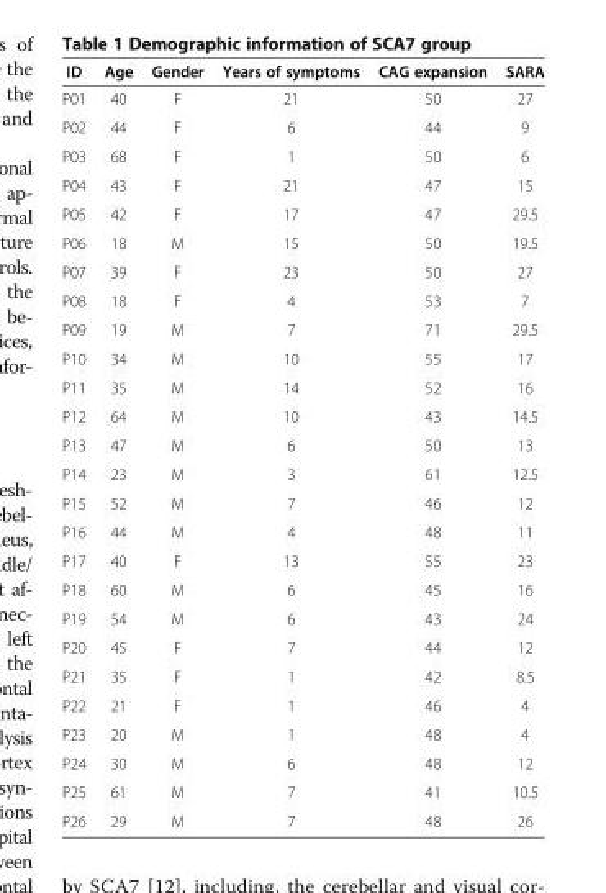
<table><thead><tr><td>ID</td><td>Age</td><td>Gender</td><td>Years of symptoms</td><td>CAG expansion</td><td>SARA</td></tr></thead><tbody><tr><td>P01</td><td>40</td><td>F</td><td>21</td><td>50</td><td>27</td></tr><tr><td>P02</td><td>44</td><td>F</td><td>6</td><td>44</td><td>9</td></tr><tr><td>P03</td><td>68</td><td>F</td><td>1</td><td>50</td><td>6</td></tr><tr><td>P04</td><td>43</td><td>F</td><td>21</td><td>47</td><td>15</td></tr><tr><td>P05</td><td>42</td><td>F</td><td>17</td><td>47</td><td>29.5</td></tr><tr><td>P06</td><td>18</td><td>M</td><td>15</td><td>50</td><td>19.5</td></tr><tr><td>P07</td><td>39</td><td>F</td><td>23</td><td>50</td><td>27</td></tr><tr><td>P08</td><td>18</td><td>F</td><td>4</td><td>53</td><td>7</td></tr><tr><td>P09</td><td>19</td><td>M</td><td>7</td><td>71</td><td>29.5</td></tr><tr><td>P10</td><td>34</td><td>M</td><td>10</td><td>55</td><td>17</td></tr><tr><td>P11</td><td>35</td><td>M</td><td>14</td><td>52</td><td>16</td></tr><tr><td>P12</td><td>64</td><td>M</td><td>10</td><td>43</td><td>14.5</td></tr><tr><td>P13</td><td>47</td><td>M</td><td>6</td><td>50</td><td>13</td></tr><tr><td>P14</td><td>23</td><td>M</td><td>3</td><td>61</td><td>12.5</td></tr><tr><td>P15</td><td>52</td><td>M</td><td>7</td><td>46</td><td>12</td></tr><tr><td>P16</td><td>44</td><td>M</td><td>4</td><td>48</td><td>11</td></tr><tr><td>P17</td><td>40</td><td>F</td><td>13</td><td>55</td><td>23</td></tr><tr><td>P18</td><td>60</td><td>M</td><td>6</td><td>45</td><td>16</td></tr><tr><td>P19</td><td>54</td><td>M</td><td>6</td><td>43</td><td>24</td></tr><tr><td>P20</td><td>45</td><td>F</td><td>7</td><td>44</td><td>12</td></tr><tr><td>P21</td><td>35</td><td>F</td><td>1</td><td>42</td><td>8.5</td></tr><tr><td>P22</td><td>21</td><td>F</td><td>1</td><td>46</td><td>4</td></tr><tr><td>P23</td><td>20</td><td>M</td><td>1</td><td>48</td><td>4</td></tr><tr><td>P24</td><td>30</td><td>M</td><td>6</td><td>48</td><td>12</td></tr><tr><td>P25</td><td>61</td><td>M</td><td>7</td><td>41</td><td>10.5</td></tr><tr><td>P26</td><td>29</td><td>M</td><td>7</td><td>48</td><td>26</td></tr></tbody></table>